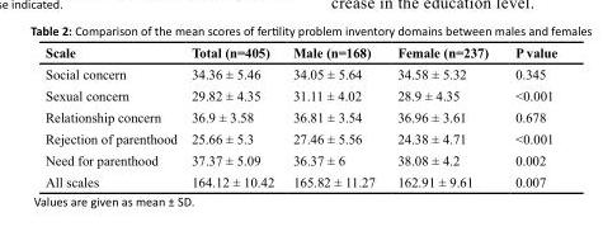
<table><thead><tr><td>Scale</td><td>Total (n=405)</td><td>Male (n=168)</td><td>Female (n=237)</td><td>P value</td></tr></thead><tbody><tr><td>Social concern</td><td>34.36 ± 5.46</td><td>34.05 ± 5.64</td><td>34.58 ± 5.32</td><td>0.345</td></tr><tr><td>Sexual concern</td><td>29.82 ± 4.35</td><td>31.11 ± 4.02</td><td>28.9 ± 4.35</td><td>&lt;0.001</td></tr><tr><td>Relationship concern</td><td>36.9 ± 3.58</td><td>36.81 ± 3.54</td><td>36.96 ± 3.61</td><td>0.678</td></tr><tr><td>Rejection of parenthood</td><td>25.66 ± 5.3</td><td>27.46 ± 5.56</td><td>24.38 ± 4.71</td><td>&lt;0.001</td></tr><tr><td>Need for parenthood</td><td>37.37 ± 5.09</td><td>36.37 ± 6</td><td>38.08 ± 4.2</td><td>0.002</td></tr><tr><td>All scales</td><td>164.12 ± 10.42</td><td>165.82 ± 11.27</td><td>162.91 ± 9.61</td><td>0.007</td></tr></tbody></table>